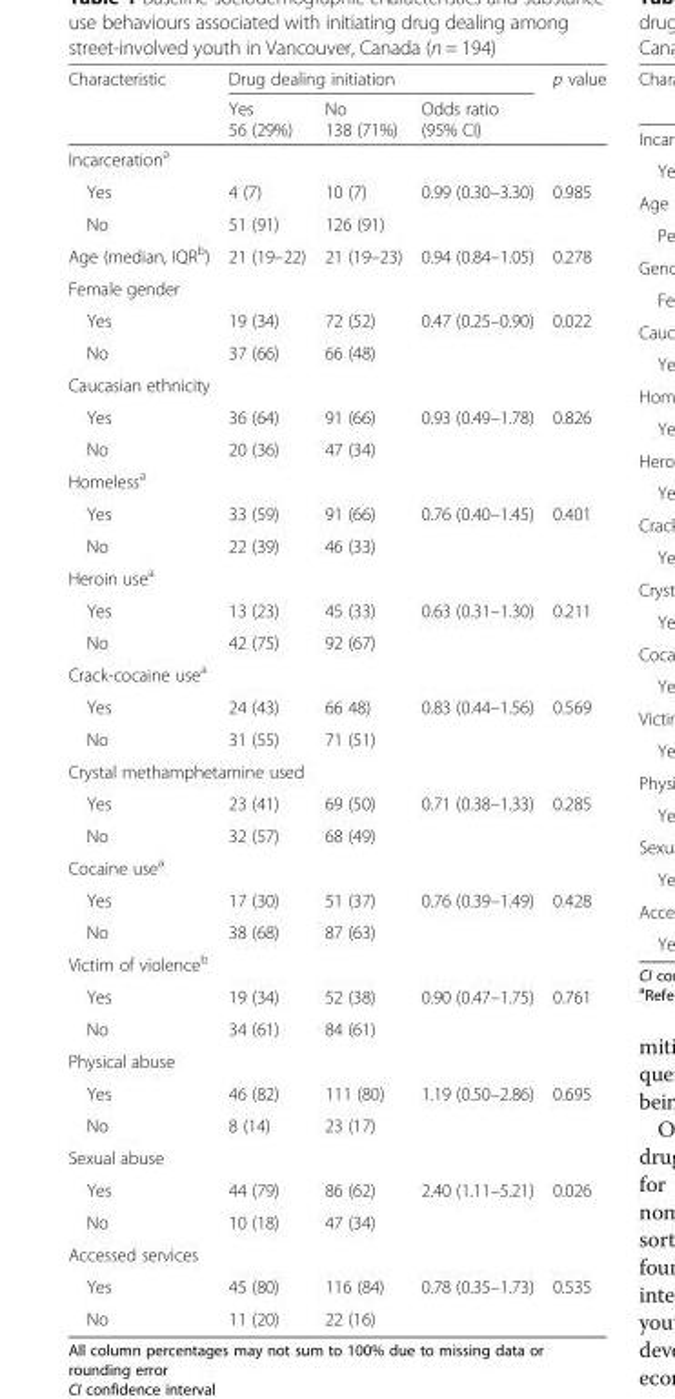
<table><thead><tr><td rowspan="2">Characteristic</td><td colspan="3">Drug dealing initiation</td><td rowspan="2">p value</td></tr><tr><td>Yes 56 (29%)</td><td>No 138 (71%)</td><td>Odds ratio (95% CI)</td></tr></thead><tbody><tr><td colspan="5">Incarceration<sup>a</sup></td></tr><tr><td>Yes</td><td>4 (7)</td><td>10 (7)</td><td>0.99 (0.30–3.30)</td><td rowspan="2">0.985</td></tr><tr><td>No</td><td>51 (91)</td><td>126 (91)</td><td></td></tr><tr><td>Age (median, IQR<sup>b</sup>)</td><td>21 (19–22)</td><td>21 (19–23)</td><td>0.94 (0.84–1.05)</td><td>0.278</td></tr><tr><td colspan="5">Female gender</td></tr><tr><td>Yes</td><td>19 (34)</td><td>72 (52)</td><td>0.47 (0.25–0.90)</td><td rowspan="2">0.022</td></tr><tr><td>No</td><td>37 (66)</td><td>66 (48)</td><td></td></tr><tr><td colspan="5">Caucasian ethnicity</td></tr><tr><td>Yes</td><td>36 (64)</td><td>91 (66)</td><td>0.93 (0.49–1.78)</td><td rowspan="2">0.826</td></tr><tr><td>No</td><td>20 (36)</td><td>47 (34)</td><td></td></tr><tr><td colspan="5">Homeless<sup>a</sup></td></tr><tr><td>Yes</td><td>33 (59)</td><td>91 (66)</td><td>0.76 (0.40–1.45)</td><td rowspan="2">0.401</td></tr><tr><td>No</td><td>22 (39)</td><td>46 (33)</td><td></td></tr><tr><td colspan="5">Heroin use<sup>a</sup></td></tr><tr><td>Yes</td><td>13 (23)</td><td>45 (33)</td><td>0.63 (0.31–1.30)</td><td rowspan="2">0.211</td></tr><tr><td>No</td><td>42 (75)</td><td>92 (67)</td><td></td></tr><tr><td colspan="5">Crack-cocaine use<sup>a</sup></td></tr><tr><td>Yes</td><td>24 (43)</td><td>66 48)</td><td>0.83 (0.44–1.56)</td><td rowspan="2">0.569</td></tr><tr><td>No</td><td>31 (55)</td><td>71 (51)</td><td></td></tr><tr><td colspan="5">Crystal methamphetamine used</td></tr><tr><td>Yes</td><td>23 (41)</td><td>69 (50)</td><td>0.71 (0.38–1.33)</td><td rowspan="2">0.285</td></tr><tr><td>No</td><td>32 (57)</td><td>68 (49)</td><td></td></tr><tr><td colspan="5">Cocaine use<sup>a</sup></td></tr><tr><td>Yes</td><td>17 (30)</td><td>51 (37)</td><td>0.76 (0.39–1.49)</td><td rowspan="2">0.428</td></tr><tr><td>No</td><td>38 (68)</td><td>87 (63)</td><td></td></tr><tr><td colspan="5">Victim of violence<sup>b</sup></td></tr><tr><td>Yes</td><td>19 (34)</td><td>52 (38)</td><td>0.90 (0.47–1.75)</td><td rowspan="2">0.761</td></tr><tr><td>No</td><td>34 (61)</td><td>84 (61)</td><td></td></tr><tr><td colspan="5">Physical abuse</td></tr><tr><td>Yes</td><td>46 (82)</td><td>111 (80)</td><td>1.19 (0.50–2.86)</td><td rowspan="2">0.695</td></tr><tr><td>No</td><td>8 (14)</td><td>23 (17)</td><td></td></tr><tr><td colspan="5">Sexual abuse</td></tr><tr><td>Yes</td><td>44 (79)</td><td>86 (62)</td><td>2.40 (1.11–5.21)</td><td rowspan="2">0.026</td></tr><tr><td>No</td><td>10 (18)</td><td>47 (34)</td><td></td></tr><tr><td colspan="5">Accessed services</td></tr><tr><td>Yes</td><td>45 (80)</td><td>116 (84)</td><td>0.78 (0.35–1.73)</td><td rowspan="2">0.535</td></tr><tr><td>No</td><td>11 (20)</td><td>22 (16)</td><td></td></tr></tbody></table>